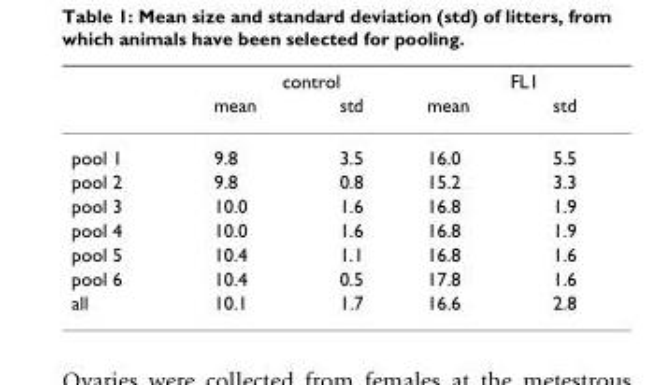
<table><thead><tr><td rowspan="2"></td><td colspan="2">control</td><td colspan="2">FL1</td></tr><tr><td>mean</td><td>std</td><td>mean</td><td>std</td></tr></thead><tbody><tr><td>pool 1</td><td>9.8</td><td>3.5</td><td>16.0</td><td>5.5</td></tr><tr><td>pool 2</td><td>9.8</td><td>0.8</td><td>15.2</td><td>3.3</td></tr><tr><td>pool 3</td><td>10.0</td><td>1.6</td><td>16.8</td><td>1.9</td></tr><tr><td>pool 4</td><td>10.0</td><td>1.6</td><td>16.8</td><td>1.9</td></tr><tr><td>pool 5</td><td>10.4</td><td>1.1</td><td>16.8</td><td>1.6</td></tr><tr><td>pool 6</td><td>10.4</td><td>0.5</td><td>17.8</td><td>1.6</td></tr><tr><td>all</td><td>10.1</td><td>1.7</td><td>16.6</td><td>2.8</td></tr></tbody></table>